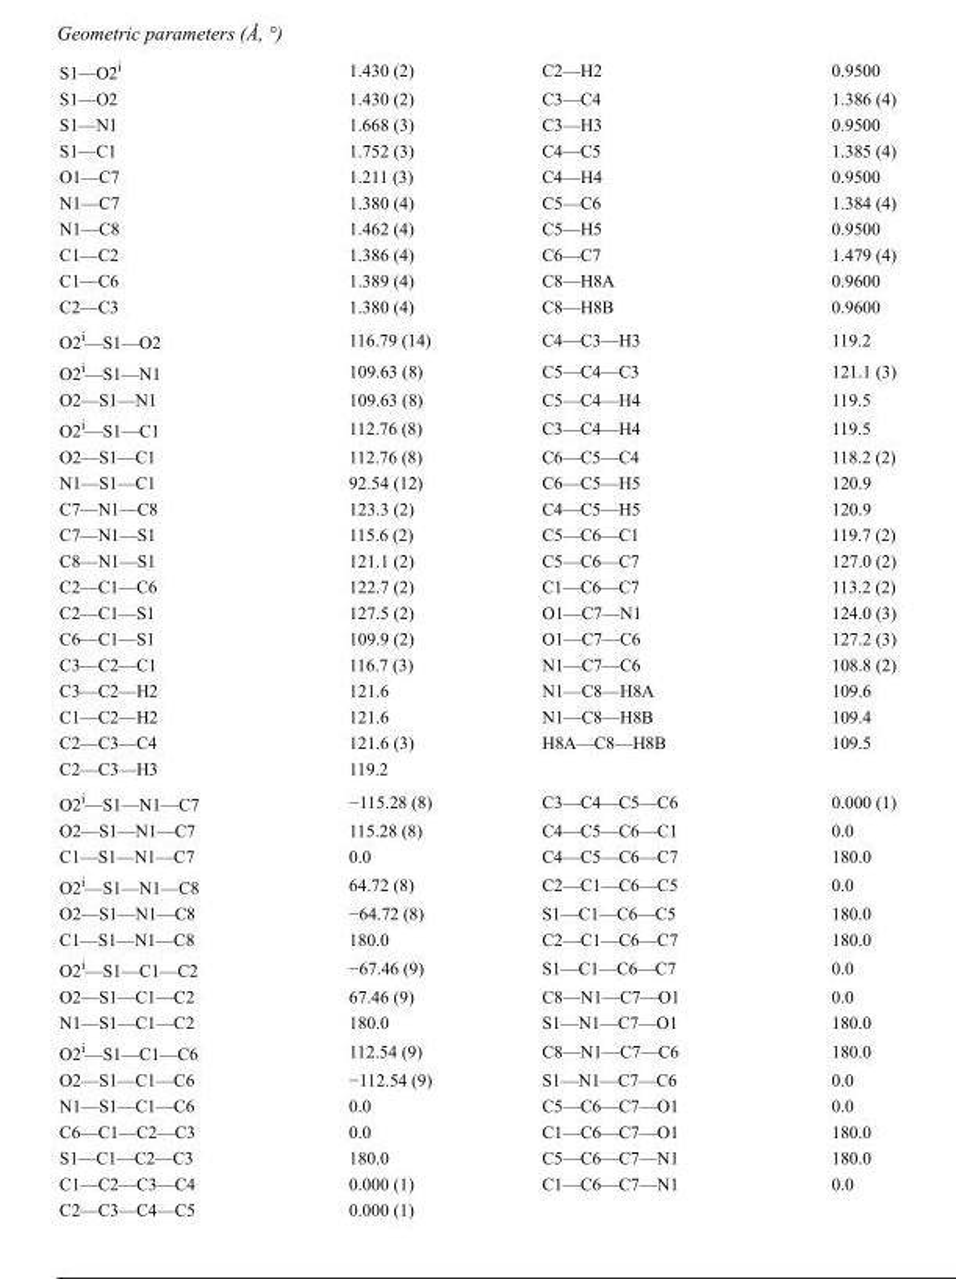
<table><tbody><tr><td>S1—O2<sup>i</sup></td><td>1.430 (2)</td><td>C2—H2</td><td>0.9500</td></tr><tr><td>S1—O2</td><td>1.430 (2)</td><td>C3—C4</td><td>1.386 (4)</td></tr><tr><td>S1—N1</td><td>1.668 (3)</td><td>C3—H3</td><td>0.9500</td></tr><tr><td>S1—C1</td><td>1.752 (3)</td><td>C4—C5</td><td>1.385 (4)</td></tr><tr><td>O1—C7</td><td>1.211 (3)</td><td>C4—H4</td><td>0.9500</td></tr><tr><td>N1—C7</td><td>1.380 (4)</td><td>C5—C6</td><td>1.384 (4)</td></tr><tr><td>N1—C8</td><td>1.462 (4)</td><td>C5—H5</td><td>0.9500</td></tr><tr><td>C1—C2</td><td>1.386 (4)</td><td>C6—C7</td><td>1.479 (4)</td></tr><tr><td>C1—C6</td><td>1.389 (4)</td><td>C8—H8A</td><td>0.9600</td></tr><tr><td>C2—C3</td><td>1.380 (4)</td><td>C8—H8B</td><td>0.9600</td></tr><tr><td>O2<sup>i</sup>—S1—O2</td><td>116.79 (14)</td><td>C4—C3—H3</td><td>119.2</td></tr><tr><td>O2<sup>i</sup>—S1—N1</td><td>109.63 (8)</td><td>C5—C4—C3</td><td>121.1 (3)</td></tr><tr><td>O2—S1—N1</td><td>109.63 (8)</td><td>C5—C4—H4</td><td>119.5</td></tr><tr><td>O2<sup>i</sup>—S1—C1</td><td>112.76 (8)</td><td>C3—C4—H4</td><td>119.5</td></tr><tr><td>O2—S1—C1</td><td>112.76 (8)</td><td>C6—C5—C4</td><td>118.2 (2)</td></tr><tr><td>N1—S1—C1</td><td>92.54 (12)</td><td>C6—C5—H5</td><td>120.9</td></tr><tr><td>C7—N1—C8</td><td>123.3 (2)</td><td>C4—C5—H5</td><td>120.9</td></tr><tr><td>C7—N1—S1</td><td>115.6 (2)</td><td>C5—C6—C1</td><td>119.7 (2)</td></tr><tr><td>C8—N1—S1</td><td>121.1 (2)</td><td>C5—C6—C7</td><td>127.0 (2)</td></tr><tr><td>C2—C1—C6</td><td>122.7 (2)</td><td>C1—C6—C7</td><td>113.2 (2)</td></tr><tr><td>C2—C1—S1</td><td>127.5 (2)</td><td>O1—C7—N1</td><td>124.0 (3)</td></tr><tr><td>C6—C1—S1</td><td>109.9 (2)</td><td>O1—C7—C6</td><td>127.2 (3)</td></tr><tr><td>C3—C2—C1</td><td>116.7 (3)</td><td>N1—C7—C6</td><td>108.8 (2)</td></tr><tr><td>C3—C2—H2</td><td>121.6</td><td>N1—C8—H8A</td><td>109.6</td></tr><tr><td>C1—C2—H2</td><td>121.6</td><td>N1—C8—H8B</td><td>109.4</td></tr><tr><td>C2—C3—C4</td><td>121.6 (3)</td><td>H8A—C8—H8B</td><td>109.5</td></tr><tr><td>C2—C3—H3</td><td>119.2</td><td></td><td></td></tr><tr><td>O2<sup>i</sup>—S1—N1—C7</td><td>−115.28 (8)</td><td>C3—C4—C5—C6</td><td>0.000 (1)</td></tr><tr><td>O2—S1—N1—C7</td><td>115.28 (8)</td><td>C4—C5—C6—C1</td><td>0.0</td></tr><tr><td>C1—S1—N1—C7</td><td>0.0</td><td>C4—C5—C6—C7</td><td>180.0</td></tr><tr><td>O2<sup>i</sup>—S1—N1—C8</td><td>64.72 (8)</td><td>C2—C1—C6—C5</td><td>0.0</td></tr><tr><td>O2—S1—N1—C8</td><td>−64.72 (8)</td><td>S1—C1—C6—C5</td><td>180.0</td></tr><tr><td>C1—S1—N1—C8</td><td>180.0</td><td>C2—C1—C6—C7</td><td>180.0</td></tr><tr><td>O2<sup>i</sup>—S1—C1—C2</td><td>−67.46 (9)</td><td>S1—C1—C6—C7</td><td>0.0</td></tr><tr><td>O2—S1—C1—C2</td><td>67.46 (9)</td><td>C8—N1—C7—O1</td><td>0.0</td></tr><tr><td>N1—S1—C1—C2</td><td>180.0</td><td>S1—N1—C7—O1</td><td>180.0</td></tr><tr><td>O2<sup>i</sup>—S1—C1—C6</td><td>112.54 (9)</td><td>C8—N1—C7—C6</td><td>180.0</td></tr><tr><td>O2—S1—C1—C6</td><td>−112.54 (9)</td><td>S1—N1—C7—C6</td><td>0.0</td></tr><tr><td>N1—S1—C1—C6</td><td>0.0</td><td>C5—C6—C7—O1</td><td>0.0</td></tr><tr><td>C6—C1—C2—C3</td><td>0.0</td><td>C1—C6—C7—O1</td><td>180.0</td></tr><tr><td>S1—C1—C2—C3</td><td>180.0</td><td>C5—C6—C7—N1</td><td>180.0</td></tr><tr><td>C1—C2—C3—C4</td><td>0.000 (1)</td><td>C1—C6—C7—N1</td><td>0.0</td></tr><tr><td>C2—C3—C4—C5</td><td>0.000 (1)</td><td></td><td></td></tr></tbody></table>